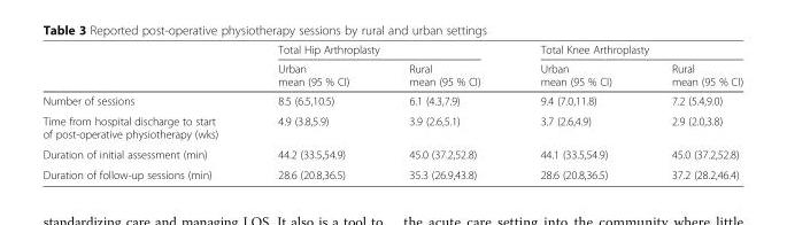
<table><thead><tr><td rowspan="2"></td><td colspan="2">Total Hip Arthroplasty</td><td colspan="2">Total Knee Arthroplasty</td></tr><tr><td>Urban mean (95 % CI)</td><td>Rural mean (95 % CI)</td><td>Urban mean (95 % CI)</td><td>Rural mean (95 % CI)</td></tr></thead><tbody><tr><td>Number of sessions</td><td>8.5 (6.5,10.5)</td><td>6.1 (4.3,7.9)</td><td>9.4 (7.0,11.8)</td><td>7.2 (5.4,9.0)</td></tr><tr><td>Time from hospital discharge to start of post-operative physiotherapy (wks)</td><td>4.9 (3.8,5.9)</td><td>3.9 (2.6,5.1)</td><td>3.7 (2.6,4.9)</td><td>2.9 (2.0,3.8)</td></tr><tr><td>Duration of initial assessment (min)</td><td>44.2 (33.5,54.9)</td><td>45.0 (37.2,52.8)</td><td>44.1 (33.5,54.9)</td><td>45.0 (37.2,52.8)</td></tr><tr><td>Duration of follow-up sessions (min)</td><td>28.6 (20.8,36.5)</td><td>35.3 (26.9,43.8)</td><td>28.6 (20.8,36.5)</td><td>37.2 (28.2,46.4)</td></tr></tbody></table>